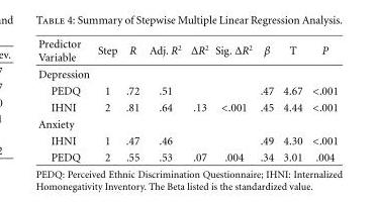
<table><thead><tr><td>Predictor Variable</td><td>Step</td><td>R</td><td>Adj. R<sup>2</sup></td><td>ΔR<sup>2</sup></td><td>Sig. ΔR<sup>2</sup></td><td>β</td><td>T</td><td>P</td></tr></thead><tbody><tr><td colspan="9">Depression</td></tr><tr><td>PEDQ</td><td>1</td><td>.72</td><td>.51</td><td></td><td></td><td>.47</td><td>4.67</td><td>&lt;.001</td></tr><tr><td>IHNI</td><td>2</td><td>.81</td><td>.64</td><td>.13</td><td>&lt;.001</td><td>.45</td><td>4.44</td><td>&lt;.001</td></tr><tr><td colspan="9">Anxiety</td></tr><tr><td>IHNI</td><td>1</td><td>.47</td><td>.46</td><td></td><td></td><td>.49</td><td>4.30</td><td>&lt;.001</td></tr><tr><td>PEDQ</td><td>2</td><td>.55</td><td>.53</td><td>.07</td><td>.004</td><td>.34</td><td>3.01</td><td>.004</td></tr></tbody></table>